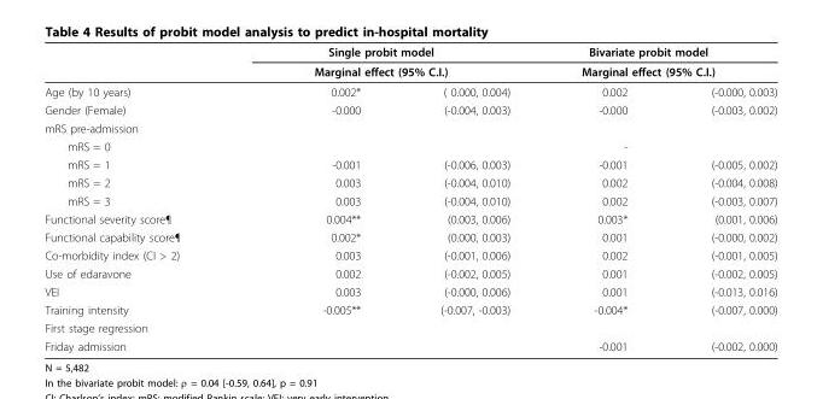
<table><thead><tr><td rowspan="3">Age (by 10 years)</td><td rowspan="2" colspan="2">Single probit model Marginal effect (95% C.I.)</td><td rowspan="2" colspan="2">Bivariate probit model Marginal effect (95% C.I.)</td></tr><tr></tr><tr><td>0.002*</td><td>( 0.000, 0.004)</td><td>0.002</td><td>(-0.000, 0.003)</td></tr></thead><tbody><tr><td>Gender (Female)</td><td>-0.000</td><td>(-0.004, 0.003)</td><td>-0.000</td><td>(-0.003, 0.002)</td></tr><tr><td colspan="5">mRS pre-admission</td></tr><tr><td>mRS = 0</td><td></td><td></td><td>-</td><td></td></tr><tr><td>mRS = 1</td><td>-0.001</td><td>(-0.006, 0.003)</td><td>-0.001</td><td>(-0.005, 0.002)</td></tr><tr><td>mRS = 2</td><td>0.003</td><td>(-0.004, 0.010)</td><td>0.002</td><td>(-0.004, 0.008)</td></tr><tr><td>mRS = 3</td><td>0.003</td><td>(-0.004, 0.010)</td><td>0.002</td><td>(-0.003, 0.007)</td></tr><tr><td>Functional severity score¶</td><td>0.004**</td><td>(0.003, 0.006)</td><td>0.003*</td><td>(0.001, 0.006)</td></tr><tr><td>Functional capability score¶</td><td>0.002*</td><td>(0.000, 0.003)</td><td>0.001</td><td>(-0.000, 0.002)</td></tr><tr><td>Co-morbidity index (CI &gt; 2)</td><td>0.003</td><td>(-0.001, 0.006)</td><td>0.002</td><td>(-0.001, 0.005)</td></tr><tr><td>Use of edaravone</td><td>0.002</td><td>(-0.002, 0.005)</td><td>0.001</td><td>(-0.002, 0.005)</td></tr><tr><td>VEI</td><td>0.003</td><td>(-0.000, 0.006)</td><td>0.001</td><td>(-0.013, 0.016)</td></tr><tr><td>Training intensity</td><td>-0.005**</td><td>(-0.007, -0.003)</td><td>-0.004*</td><td>(-0.007, 0.000)</td></tr><tr><td colspan="5">First stage regression</td></tr><tr><td>Friday admission</td><td></td><td></td><td>-0.001</td><td>(-0.002, 0.000)</td></tr></tbody></table>